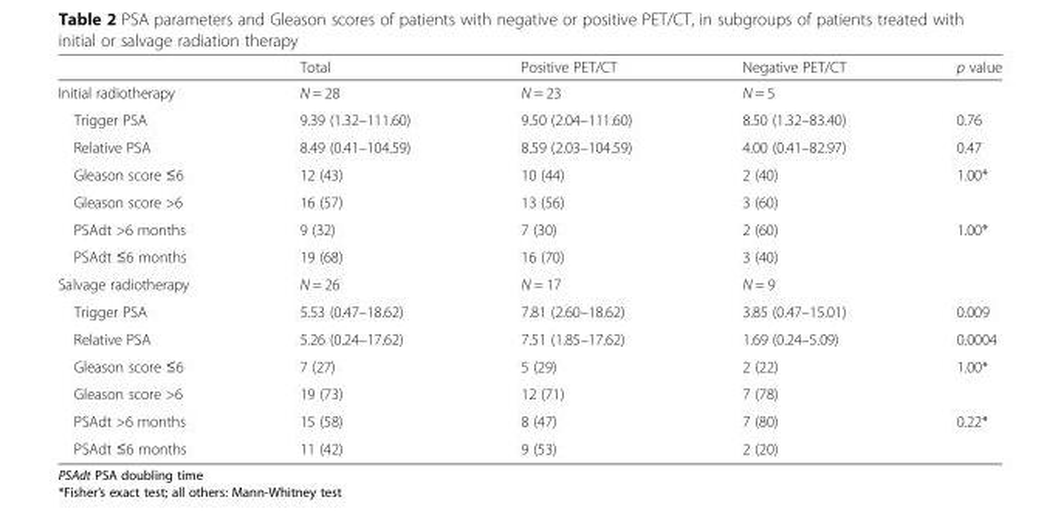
<table><thead><tr><td></td><td>Total</td><td>Positive PET/CT</td><td>Negative PET/CT</td><td>p value</td></tr></thead><tbody><tr><td>Initial radiotherapy</td><td>N = 28</td><td>N = 23</td><td>N = 5</td><td></td></tr><tr><td>Trigger PSA</td><td>9.39 (1.32–111.60)</td><td>9.50 (2.04–111.60)</td><td>8.50 (1.32–83.40)</td><td>0.76</td></tr><tr><td>Relative PSA</td><td>8.49 (0.41–104.59)</td><td>8.59 (2.03–104.59)</td><td>4.00 (0.41–82.97)</td><td>0.47</td></tr><tr><td>Gleason score ≤6</td><td>12 (43)</td><td>10 (44)</td><td>2 (40)</td><td>1.00*</td></tr><tr><td>Gleason score &gt;6</td><td>16 (57)</td><td>13 (56)</td><td>3 (60)</td><td></td></tr><tr><td>PSAdt &gt;6 months</td><td>9 (32)</td><td>7 (30)</td><td>2 (60)</td><td>1.00*</td></tr><tr><td>PSAdt ≤6 months</td><td>19 (68)</td><td>16 (70)</td><td>3 (40)</td><td></td></tr><tr><td>Salvage radiotherapy</td><td>N = 26</td><td>N = 17</td><td>N = 9</td><td></td></tr><tr><td>Trigger PSA</td><td>5.53 (0.47–18.62)</td><td>7.81 (2.60–18.62)</td><td>3.85 (0.47–15.01)</td><td>0.009</td></tr><tr><td>Relative PSA</td><td>5.26 (0.24–17.62)</td><td>7.51 (1.85–17.62)</td><td>1.69 (0.24–5.09)</td><td>0.0004</td></tr><tr><td>Gleason score ≤6</td><td>7 (27)</td><td>5 (29)</td><td>2 (22)</td><td>1.00*</td></tr><tr><td>Gleason score &gt;6</td><td>19 (73)</td><td>12 (71)</td><td>7 (78)</td><td></td></tr><tr><td>PSAdt &gt;6 months</td><td>15 (58)</td><td>8 (47)</td><td>7 (80)</td><td>0.22*</td></tr><tr><td>PSAdt ≤6 months</td><td>11 (42)</td><td>9 (53)</td><td>2 (20)</td><td></td></tr></tbody></table>